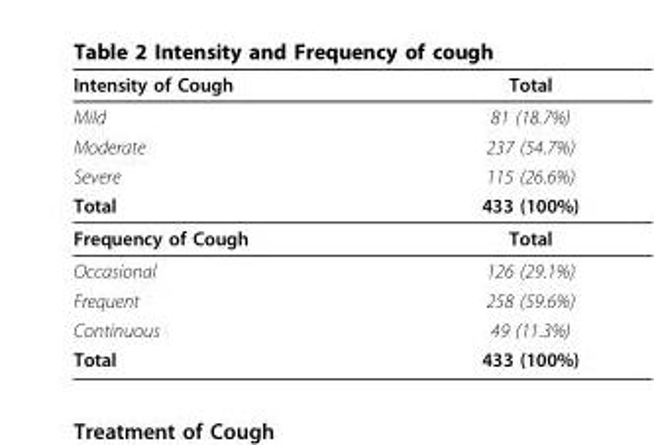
<table><thead><tr><td>Intensity of Cough</td><td>Total</td></tr></thead><tbody><tr><td>Mild</td><td>81 (18.7%)</td></tr><tr><td>Moderate</td><td>237 (54.7%)</td></tr><tr><td>Severe</td><td>115 (26.6%)</td></tr><tr><td>Total</td><td>433 (100%)</td></tr><tr><td>Frequency of Cough</td><td>Total</td></tr><tr><td>Occasional</td><td>126 (29.1%)</td></tr><tr><td>Frequent</td><td>258 (59.6%)</td></tr><tr><td>Continuous</td><td>49 (11.3%)</td></tr><tr><td>Total</td><td>433 (100%)</td></tr></tbody></table>